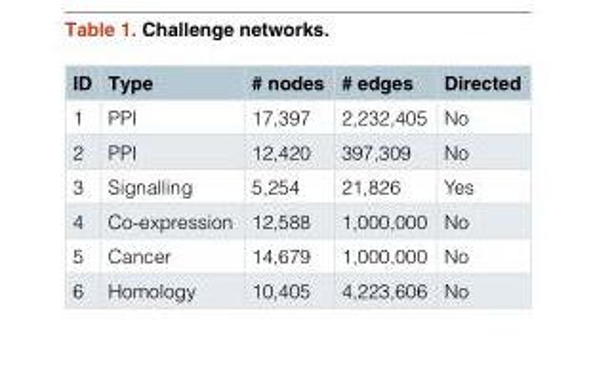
<table><thead><tr><td>ID</td><td>Type</td><td># nodes</td><td># edges</td><td>Directed</td></tr></thead><tbody><tr><td>1</td><td>PPI</td><td>17,397</td><td>2,232,405</td><td>No</td></tr><tr><td>2</td><td>PPI</td><td>12,420</td><td>397,309</td><td>No</td></tr><tr><td>3</td><td>Signalling</td><td>5,254</td><td>21,826</td><td>Yes</td></tr><tr><td>4</td><td>Co-expression</td><td>12,588</td><td>1,000,000</td><td>No</td></tr><tr><td>5</td><td>Cancer</td><td>14,679</td><td>1,000,000</td><td>No</td></tr><tr><td>6</td><td>Homology</td><td>10,405</td><td>4,223,606</td><td>No</td></tr></tbody></table>